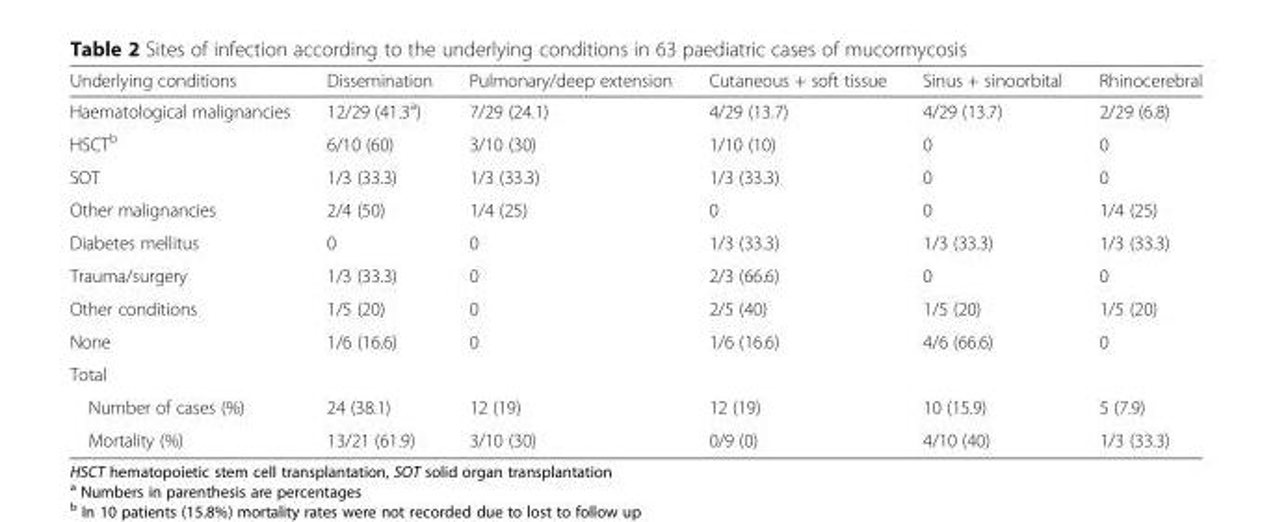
<table><thead><tr><td>Underlying conditions</td><td>Dissemination</td><td>Pulmonary/deep extension</td><td>Cutaneous + soft tissue</td><td>Sinus + sinoorbital</td><td>Rhinocerebral</td></tr></thead><tbody><tr><td>Haematological malignancies</td><td>12/29 (41.3<sup>a</sup>)</td><td>7/29 (24.1)</td><td>4/29 (13.7)</td><td>4/29 (13.7)</td><td>2/29 (6.8)</td></tr><tr><td>HSCT<sup>b</sup></td><td>6/10 (60)</td><td>3/10 (30)</td><td>1/10 (10)</td><td>0</td><td>0</td></tr><tr><td>SOT</td><td>1/3 (33.3)</td><td>1/3 (33.3)</td><td>1/3 (33.3)</td><td>0</td><td>0</td></tr><tr><td>Other malignancies</td><td>2/4 (50)</td><td>1/4 (25)</td><td>0</td><td>0</td><td>1/4 (25)</td></tr><tr><td>Diabetes mellitus</td><td>0</td><td>0</td><td>1/3 (33.3)</td><td>1/3 (33.3)</td><td>1/3 (33.3)</td></tr><tr><td>Trauma/surgery</td><td>1/3 (33.3)</td><td>0</td><td>2/3 (66.6)</td><td>0</td><td>0</td></tr><tr><td>Other conditions</td><td>1/5 (20)</td><td>0</td><td>2/5 (40)</td><td>1/5 (20)</td><td>1/5 (20)</td></tr><tr><td>None</td><td>1/6 (16.6)</td><td>0</td><td>1/6 (16.6)</td><td>4/6 (66.6)</td><td>0</td></tr><tr><td colspan="6">Total</td></tr><tr><td>Number of cases (%)</td><td>24 (38.1)</td><td>12 (19)</td><td>12 (19)</td><td>10 (15.9)</td><td>5 (7.9)</td></tr><tr><td>Mortality (%)</td><td>13/21 (61.9)</td><td>3/10 (30)</td><td>0/9 (0)</td><td>4/10 (40)</td><td>1/3 (33.3)</td></tr></tbody></table>